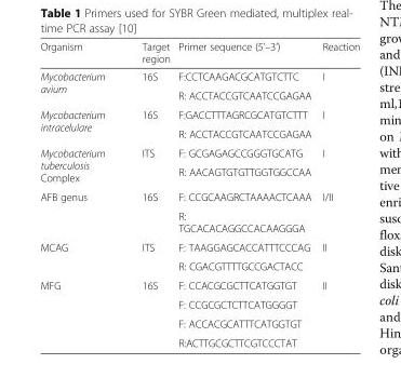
<table><thead><tr><td>Organism</td><td>Target region</td><td>Primer sequence (5’–3’)</td><td>Reaction</td></tr></thead><tbody><tr><td rowspan="2">Mycobacterium avium</td><td rowspan="2">16S</td><td>F:CCTCAAGACGCATGTCTTC</td><td rowspan="2">I</td></tr><tr><td>R: ACCTACCGTCAATCCGAGAA</td></tr><tr><td rowspan="2">Mycobacterium intracelulare</td><td rowspan="2">16S</td><td>F:GACCTTTAGRCGCATGTCTTT</td><td rowspan="2">I</td></tr><tr><td>R: ACCTACCGTCAATCCGAGAA</td></tr><tr><td rowspan="2">Mycobacterium tuberculosis Complex</td><td rowspan="2">ITS</td><td>F: GCGAGAGCCGGGTGCATG</td><td rowspan="2">I</td></tr><tr><td>R: AACAGTGTGTTGGTGGCCAA</td></tr><tr><td rowspan="2">AFB genus</td><td rowspan="2">16S</td><td>F: CCGCAAGRCTAAAACTCAAA</td><td rowspan="2">I/II</td></tr><tr><td>R: TGCACACAGGCCACAAGGGA</td></tr><tr><td rowspan="2">MCAG</td><td rowspan="2">ITS</td><td>F: TAAGGAGCACCATTTCCCAG</td><td rowspan="2">II</td></tr><tr><td>R: CGACGTTTTGCCGACTACC</td></tr><tr><td rowspan="4">MFG</td><td rowspan="4">16S</td><td>F: CCACGCGCTTCATGGTGT</td><td rowspan="4">II</td></tr><tr><td>F: CCGCGCTCTTCATGGGGT</td></tr><tr><td>F: ACCACGCATTTCATGGTGT</td></tr><tr><td>R:ACTTGCGCTTCGTCCCTAT</td></tr></tbody></table>